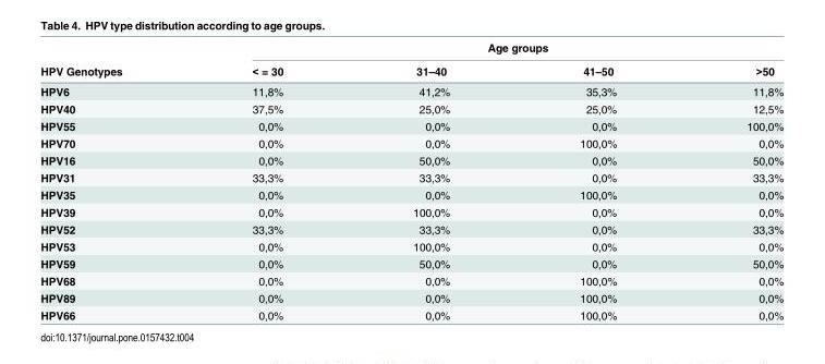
<table><thead><tr><td rowspan="2">HPV Genotypes</td><td colspan="4">Age groups</td></tr><tr><td>&lt; = 30</td><td>31–40</td><td>41–50</td><td>&gt;50</td></tr></thead><tbody><tr><td>HPV6</td><td>11,8%</td><td>41,2%</td><td>35,3%</td><td>11,8%</td></tr><tr><td>HPV40</td><td>37,5%</td><td>25,0%</td><td>25,0%</td><td>12,5%</td></tr><tr><td>HPV55</td><td>0,0%</td><td>0,0%</td><td>0,0%</td><td>100,0%</td></tr><tr><td>HPV70</td><td>0,0%</td><td>0,0%</td><td>100,0%</td><td>0,0%</td></tr><tr><td>HPV16</td><td>0,0%</td><td>50,0%</td><td>0,0%</td><td>50,0%</td></tr><tr><td>HPV31</td><td>33,3%</td><td>33,3%</td><td>0,0%</td><td>33,3%</td></tr><tr><td>HPV35</td><td>0,0%</td><td>0,0%</td><td>100,0%</td><td>0,0%</td></tr><tr><td>HPV39</td><td>0,0%</td><td>100,0%</td><td>0,0%</td><td>0,0%</td></tr><tr><td>HPV52</td><td>33,3%</td><td>33,3%</td><td>0,0%</td><td>33,3%</td></tr><tr><td>HPV53</td><td>0,0%</td><td>100,0%</td><td>0,0%</td><td>0,0%</td></tr><tr><td>HPV59</td><td>0,0%</td><td>50,0%</td><td>0,0%</td><td>50,0%</td></tr><tr><td>HPV68</td><td>0,0%</td><td>0,0%</td><td>100,0%</td><td>0,0%</td></tr><tr><td>HPV89</td><td>0,0%</td><td>0,0%</td><td>100,0%</td><td>0,0%</td></tr><tr><td>HPV66</td><td>0,0%</td><td>0,0%</td><td>100,0%</td><td>0,0%</td></tr></tbody></table>